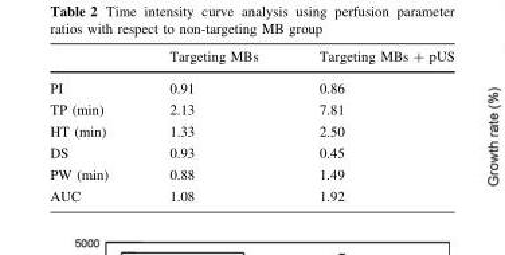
<table><thead><tr><td></td><td>Targeting MBs</td><td>Targeting MBs + pUS</td></tr></thead><tbody><tr><td>PI</td><td>0.91</td><td>0.86</td></tr><tr><td>TP (min)</td><td>2.13</td><td>7.81</td></tr><tr><td>HT (min)</td><td>1.33</td><td>2.50</td></tr><tr><td>DS</td><td>0.93</td><td>0.45</td></tr><tr><td>PW (min)</td><td>0.88</td><td>1.49</td></tr><tr><td>AUC</td><td>1.08</td><td>1.92</td></tr></tbody></table>